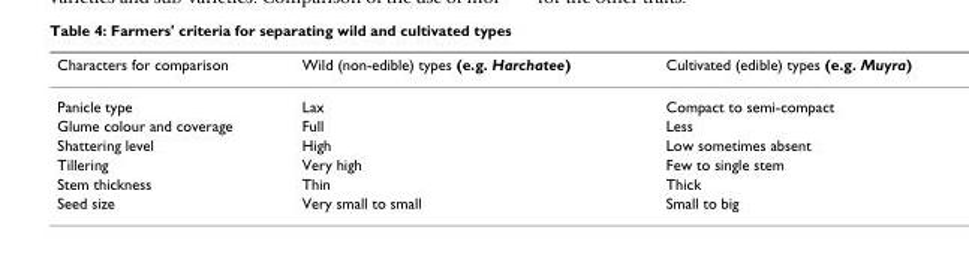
<table><thead><tr><td>Characters for comparison</td><td>Wild (non-edible) types (e.g. Harchatee)</td><td>Cultivated (edible) types (e.g. Muyra)</td></tr></thead><tbody><tr><td>Panicle type</td><td>Lax</td><td>Compact to semi-compact</td></tr><tr><td>Glume colour and coverage</td><td>Full</td><td>Less</td></tr><tr><td>Shattering level</td><td>High</td><td>Low sometimes absent</td></tr><tr><td>Tillering</td><td>Very high</td><td>Few to single stem</td></tr><tr><td>Stem thickness</td><td>Thin</td><td>Thick</td></tr><tr><td>Seed size</td><td>Very small to small</td><td>Small to big</td></tr></tbody></table>